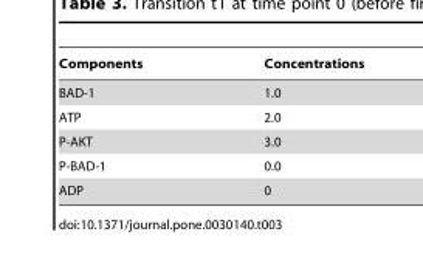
<table><thead><tr><td>Components</td><td>Concentrations</td></tr></thead><tbody><tr><td>BAD-1</td><td>1.0</td></tr><tr><td>ATP</td><td>2.0</td></tr><tr><td>P-AKT</td><td>3.0</td></tr><tr><td>P-BAD-1</td><td>0.0</td></tr><tr><td>ADP</td><td>0</td></tr></tbody></table>